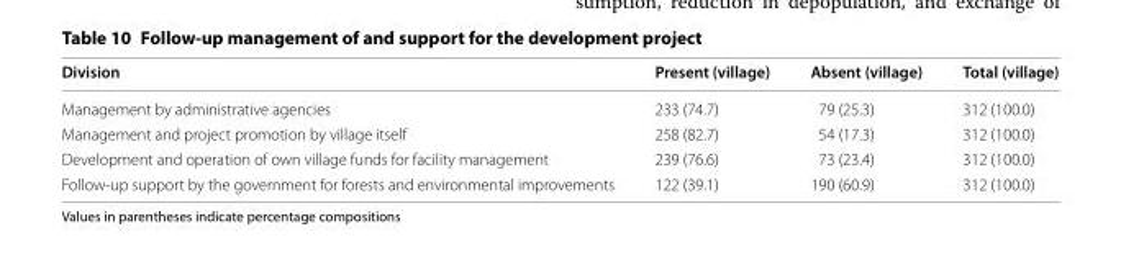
<table><thead><tr><td>Division</td><td>Present (village)</td><td>Absent (village)</td><td>Total (village)</td></tr></thead><tbody><tr><td>Management by administrative agencies</td><td>233 (74.7)</td><td>79 (25.3)</td><td>312 (100.0)</td></tr><tr><td>Management and project promotion by village itself</td><td>258 (82.7)</td><td>54 (17.3)</td><td>312 (100.0)</td></tr><tr><td>Development and operation of own village funds for facility management</td><td>239 (76.6)</td><td>73 (23.4)</td><td>312 (100.0)</td></tr><tr><td>Follow-up support by the government for forests and environmental improvements</td><td>122 (39.1)</td><td>190 (60.9)</td><td>312 (100.0)</td></tr></tbody></table>